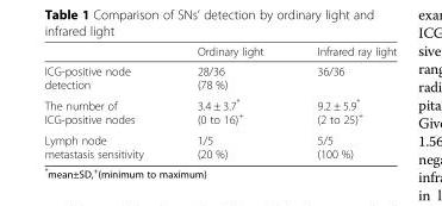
<table><thead><tr><td></td><td>Ordinary light</td><td>Infrared ray light</td></tr></thead><tbody><tr><td>ICG-positive node detection</td><td>28/36 (78 %)</td><td>36/36</td></tr><tr><td>The number of ICG-positive nodes</td><td>3.4 ± 3.7* (0 to 16)<sup>+</sup></td><td>9.2 ± 5.9* (2 to 25)<sup>+</sup></td></tr><tr><td>Lymph node metastasis sensitivity</td><td>1/5 (20 %)</td><td>5/5 (100 %)</td></tr></tbody></table>